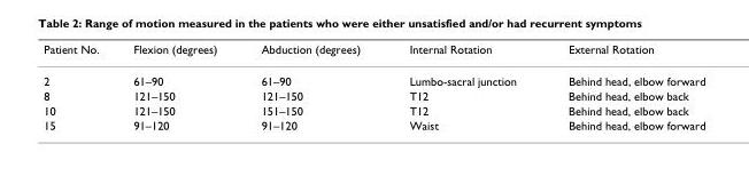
<table><thead><tr><td>Patient No.</td><td>Flexion (degrees)</td><td>Abduction (degrees)</td><td>Internal Rotation</td><td>External Rotation</td></tr></thead><tbody><tr><td>2</td><td>61–90</td><td>61–90</td><td>Lumbo-sacral junction</td><td>Behind head, elbow forward</td></tr><tr><td>8</td><td>121–150</td><td>121–150</td><td>T12</td><td>Behind head, elbow back</td></tr><tr><td>10</td><td>121–150</td><td>151–150</td><td>T12</td><td>Behind head, elbow back</td></tr><tr><td>15</td><td>91–120</td><td>91–120</td><td>Waist</td><td>Behind head, elbow forward</td></tr></tbody></table>